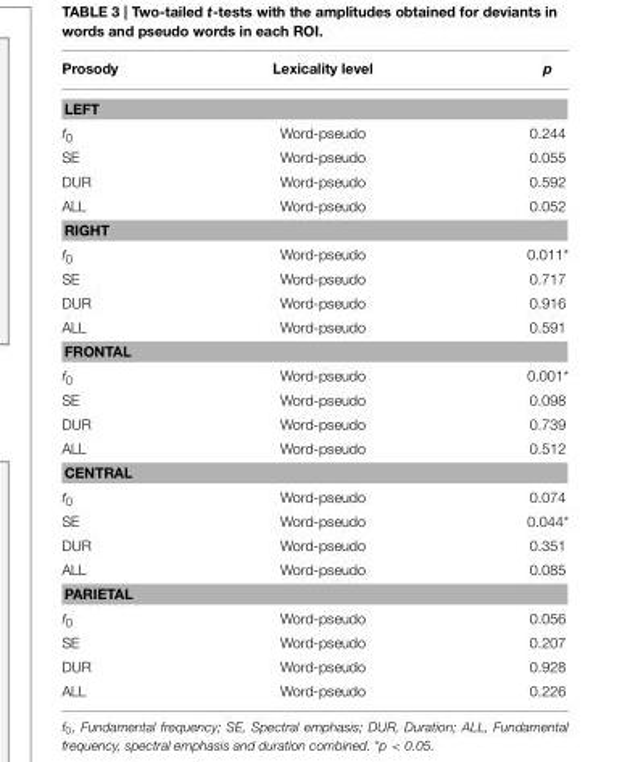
<table><thead><tr><td>Prosody</td><td>Lexicality level</td><td>p</td></tr></thead><tbody><tr><td colspan="3">LEFT</td></tr><tr><td>f<sub>0</sub></td><td>Word-pseudo</td><td>0.244</td></tr><tr><td>SE</td><td>Word-pseudo</td><td>0.055</td></tr><tr><td>DUR</td><td>Word-pseudo</td><td>0.592</td></tr><tr><td>ALL</td><td>Word-pseudo</td><td>0.052</td></tr><tr><td colspan="3">RIGHT</td></tr><tr><td>f<sub>0</sub></td><td>Word-pseudo</td><td>0.011*</td></tr><tr><td>SE</td><td>Word-pseudo</td><td>0.717</td></tr><tr><td>DUR</td><td>Word-pseudo</td><td>0.916</td></tr><tr><td>ALL</td><td>Word-pseudo</td><td>0.591</td></tr><tr><td colspan="3">FRONTAL</td></tr><tr><td>f<sub>0</sub></td><td>Word-pseudo</td><td>0.001*</td></tr><tr><td>SE</td><td>Word-pseudo</td><td>0.098</td></tr><tr><td>DUR</td><td>Word-pseudo</td><td>0.739</td></tr><tr><td>ALL</td><td>Word-pseudo</td><td>0.512</td></tr><tr><td colspan="3">CENTRAL</td></tr><tr><td>f<sub>0</sub></td><td>Word-pseudo</td><td>0.074</td></tr><tr><td>SE</td><td>Word-pseudo</td><td>0.044*</td></tr><tr><td>DUR</td><td>Word-pseudo</td><td>0.351</td></tr><tr><td>ALL</td><td>Word-pseudo</td><td>0.085</td></tr><tr><td colspan="3">PARIETAL</td></tr><tr><td>f<sub>0</sub></td><td>Word-pseudo</td><td>0.056</td></tr><tr><td>SE</td><td>Word-pseudo</td><td>0.207</td></tr><tr><td>DUR</td><td>Word-pseudo</td><td>0.928</td></tr><tr><td>ALL</td><td>Word-pseudo</td><td>0.226</td></tr></tbody></table>